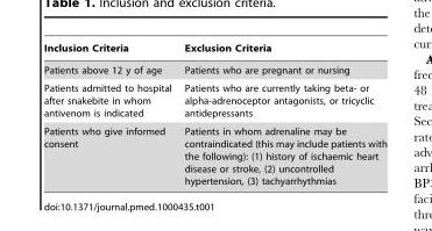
<table><thead><tr><td>Inclusion Criteria</td><td>Exclusion Criteria</td></tr></thead><tbody><tr><td>Patients above 12 y of age</td><td>Patients who are pregnant or nursing</td></tr><tr><td>Patients admitted to hospital after snakebite in whom antivenom is indicated</td><td>Patients who are currently taking beta- or alpha-adrenoceptor antagonists, or tricyclic antidepressants</td></tr><tr><td>Patients who give informed consent</td><td>Patients in whom adrenaline may be contraindicated (this may include patients with the following): (1) history of ischaemic heart disease or stroke, (2) uncontrolled hypertension, (3) tachyarrhythmias</td></tr></tbody></table>